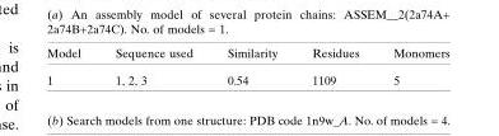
<table><thead><tr><td>Model</td><td>Sequence used</td><td>Similarity</td><td>Residues</td><td>Monomers</td></tr></thead><tbody><tr><td>1</td><td>1, 2, 3</td><td>0.54</td><td>1109</td><td>5</td></tr></tbody></table>